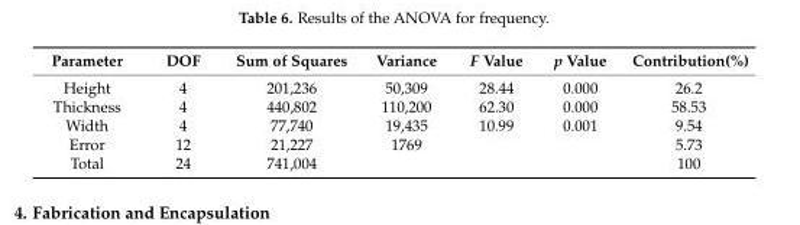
<table><thead><tr><td>Parameter</td><td>DOF</td><td>Sum of Squares</td><td>Variance</td><td>F Value</td><td>p Value</td><td>Contribution(%)</td></tr></thead><tbody><tr><td>Height</td><td>4</td><td>201,236</td><td>50,309</td><td>28.44</td><td>0.000</td><td>26.2</td></tr><tr><td>Thickness</td><td>4</td><td>440,802</td><td>110,200</td><td>62.30</td><td>0.000</td><td>58.53</td></tr><tr><td>Width</td><td>4</td><td>77,740</td><td>19,435</td><td>10.99</td><td>0.001</td><td>9.54</td></tr><tr><td>Error</td><td>12</td><td>21,227</td><td>1769</td><td></td><td></td><td>5.73</td></tr><tr><td>Total</td><td>24</td><td>741,004</td><td></td><td></td><td></td><td>100</td></tr></tbody></table>